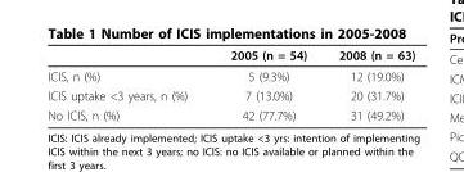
<table><thead><tr><td></td><td>2005 (n = 54)</td><td>2008 (n = 63)</td></tr></thead><tbody><tr><td>ICIS, n (%)</td><td>5 (9.3%)</td><td>12 (19.0%)</td></tr><tr><td>ICIS uptake &lt;3 years, n (%)</td><td>7 (13.0%)</td><td>20 (31.7%)</td></tr><tr><td>No ICIS, n (%)</td><td>42 (77.7%)</td><td>31 (49.2%)</td></tr></tbody></table>